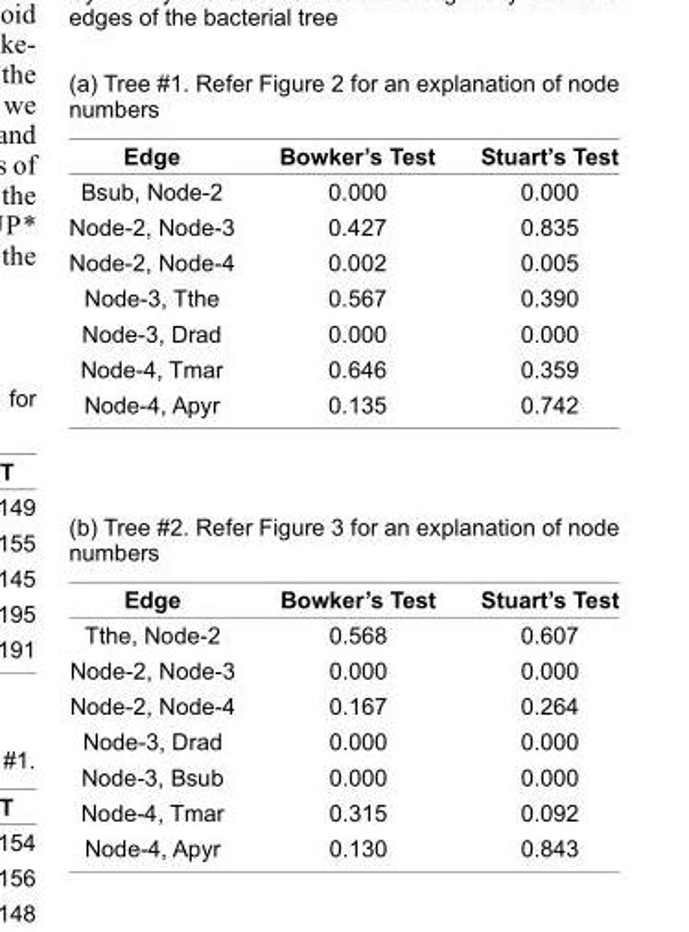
<table><tbody><tr><td colspan="3">(a) Tree #1. Refer Figure 2 for an explanation of node numbers</td></tr><tr><td>Edge</td><td>Bowker’s Test</td><td>Stuart’s Test</td></tr><tr><td>Bsub, Node-2</td><td>0.000</td><td>0.000</td></tr><tr><td>Node-2, Node-3</td><td>0.427</td><td>0.835</td></tr><tr><td>Node-2, Node-4</td><td>0.002</td><td>0.005</td></tr><tr><td>Node-3, Tthe</td><td>0.567</td><td>0.390</td></tr><tr><td>Node-3, Drad</td><td>0.000</td><td>0.000</td></tr><tr><td>Node-4, Tmar</td><td>0.646</td><td>0.359</td></tr><tr><td>Node-4, Apyr</td><td>0.135</td><td>0.742</td></tr><tr><td colspan="3">(b) Tree #2. Refer Figure 3 for an explanation of node numbers</td></tr><tr><td>Edge</td><td>Bowker’s Test</td><td>Stuart’s Test</td></tr><tr><td>Tthe, Node-2</td><td>0.568</td><td>0.607</td></tr><tr><td>Node-2, Node-3</td><td>0.000</td><td>0.000</td></tr><tr><td>Node-2, Node-4</td><td>0.167</td><td>0.264</td></tr><tr><td>Node-3, Drad</td><td>0.000</td><td>0.000</td></tr><tr><td>Node-3, Bsub</td><td>0.000</td><td>0.000</td></tr><tr><td>Node-4, Tmar</td><td>0.315</td><td>0.092</td></tr><tr><td>Node-4, Apyr</td><td>0.130</td><td>0.843</td></tr></tbody></table>